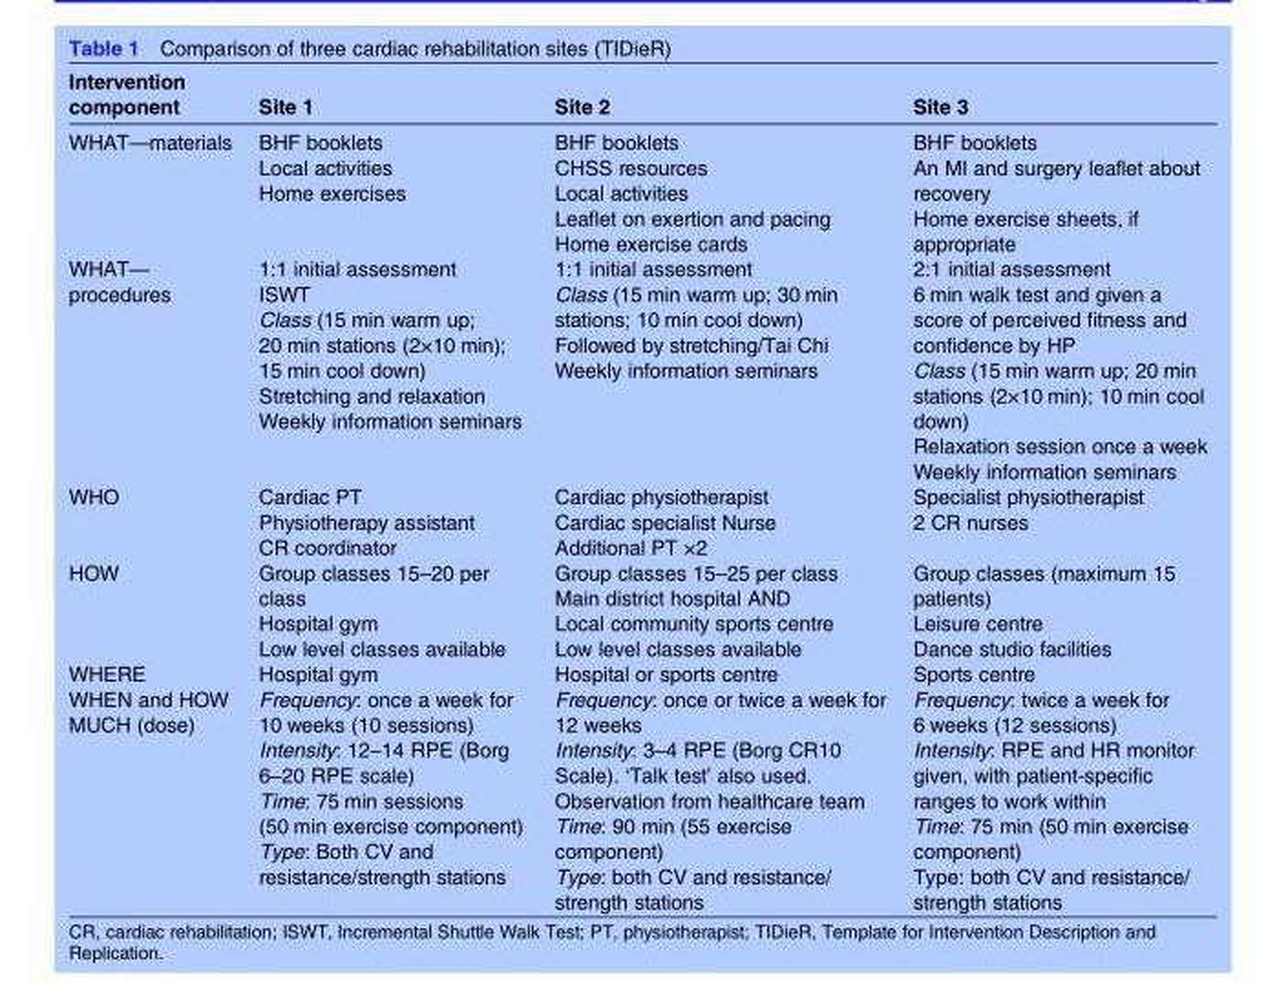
<table><thead><tr><td>Intervention component</td><td>Site 1</td><td>Site 2</td><td>Site 3</td></tr></thead><tbody><tr><td>WHAT—materials</td><td>BHF booklets Local activities Home exercises</td><td>BHF booklets CHSS resources Local activities Leaflet on exertion and pacing Home exercise cards</td><td>BHF booklets An MI and surgery leaflet about recovery Home exercise sheets, if appropriate</td></tr><tr><td>WHAT— procedures</td><td>1:1 initial assessment ISWT Class (15 min warm up; 20 min stations (2×10 min); 15 min cool down) Stretching and relaxation Weekly information seminars</td><td>1:1 initial assessment Class (15 min warm up; 30 min stations; 10 min cool down) Followed by stretching/Tai Chi Weekly information seminars</td><td>2:1 initial assessment 6 min walk test and given a score of perceived fitness and confidence by HP Class (15 min warm up; 20 min stations (2×10 min); 10 min cool down) Relaxation session once a week Weekly information seminars</td></tr><tr><td>WHO</td><td>Cardiac PT Physiotherapy assistant CR coordinator</td><td>Cardiac physiotherapist Cardiac specialist Nurse Additional PT ×2</td><td>Specialist physiotherapist 2 CR nurses</td></tr><tr><td>HOW</td><td>Group classes 15–20 per class Hospital gym Low level classes available</td><td>Group classes 15–25 per class Main district hospital AND Local community sports centre Low level classes available</td><td>Group classes (maximum 15 patients) Leisure centre Dance studio facilities</td></tr><tr><td>WHERE</td><td>Hospital gym</td><td>Hospital or sports centre</td><td>Sports centre</td></tr><tr><td>WHEN and HOW MUCH (dose)</td><td>Frequency: once a week for 10 weeks (10 sessions) Intensity: 12–14 RPE (Borg 6–20 RPE scale) Time: 75 min sessions (50 min exercise component) Type: Both CV and resistance/strength stations</td><td>Frequency: once or twice a week for 12 weeks Intensity: 3–4 RPE (Borg CR10 Scale). ‘Talk test’ also used. Observation from healthcare team Time: 90 min (55 exercise component) Type: both CV and resistance/ strength stations</td><td>Frequency: twice a week for 6 weeks (12 sessions) Intensity: RPE and HR monitor given, with patient-specific ranges to work within Time: 75 min (50 min exercise component) Type: both CV and resistance/ strength stations</td></tr></tbody></table>